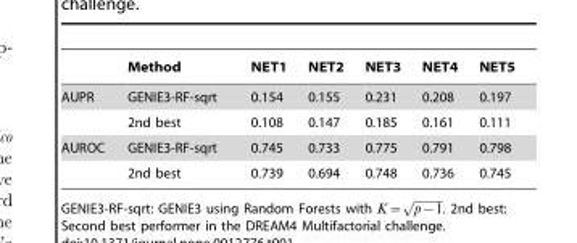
<table><thead><tr><td></td><td>Method</td><td>NET1</td><td>NET2</td><td>NET3</td><td>NET4</td><td>NET5</td></tr></thead><tbody><tr><td rowspan="2">AUPR</td><td>GENIE3-RF-sqrt</td><td>0.154</td><td>0.155</td><td>0.231</td><td>0.208</td><td>0.197</td></tr><tr><td>2nd best</td><td>0.108</td><td>0.147</td><td>0.185</td><td>0.161</td><td>0.111</td></tr><tr><td rowspan="2">AUROC</td><td>GENIE3-RF-sqrt</td><td>0.745</td><td>0.733</td><td>0.775</td><td>0.791</td><td>0.798</td></tr><tr><td>2nd best</td><td>0.739</td><td>0.694</td><td>0.748</td><td>0.736</td><td>0.745</td></tr></tbody></table>